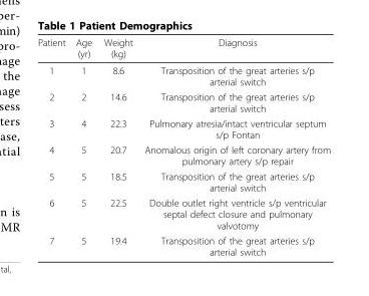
<table><thead><tr><td>Patient</td><td>Age (yr)</td><td>Weight (kg)</td><td>Diagnosis</td></tr></thead><tbody><tr><td>1</td><td>1</td><td>8.6</td><td>Transposition of the great arteries s/p arterial switch</td></tr><tr><td>2</td><td>2</td><td>14.6</td><td>Transposition of the great arteries s/p arterial switch</td></tr><tr><td>3</td><td>4</td><td>22.3</td><td>Pulmonary atresia/intact ventricular septum s/p Fontan</td></tr><tr><td>4</td><td>5</td><td>20.7</td><td>Anomalous origin of left coronary artery from pulmonary artery s/p repair</td></tr><tr><td>5</td><td>5</td><td>18.5</td><td>Transposition of the great arteries s/p arterial switch</td></tr><tr><td>6</td><td>5</td><td>22.5</td><td>Double outlet right ventricle s/p ventricular septal defect closure and pulmonary valvotomy</td></tr><tr><td>7</td><td>5</td><td>19.4</td><td>Transposition of the great arteries s/p arterial switch</td></tr></tbody></table>